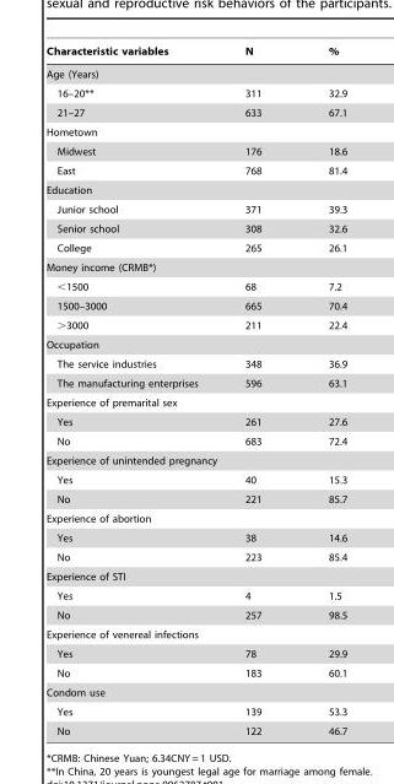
<table><thead><tr><td>Characteristic variables</td><td>N</td><td>%</td></tr></thead><tbody><tr><td colspan="3">Age (Years)</td></tr><tr><td>16–20**</td><td>311</td><td>32.9</td></tr><tr><td>21–27</td><td>633</td><td>67.1</td></tr><tr><td colspan="3">Hometown</td></tr><tr><td>Midwest</td><td>176</td><td>18.6</td></tr><tr><td>East</td><td>768</td><td>81.4</td></tr><tr><td colspan="3">Education</td></tr><tr><td>Junior school</td><td>371</td><td>39.3</td></tr><tr><td>Senior school</td><td>308</td><td>32.6</td></tr><tr><td>College</td><td>265</td><td>26.1</td></tr><tr><td colspan="3">Money income (CRMB*)</td></tr><tr><td>&lt;1500</td><td>68</td><td>7.2</td></tr><tr><td>1500–3000</td><td>665</td><td>70.4</td></tr><tr><td>&gt;3000</td><td>211</td><td>22.4</td></tr><tr><td colspan="3">Occupation</td></tr><tr><td>The service industries</td><td>348</td><td>36.9</td></tr><tr><td>The manufacturing enterprises</td><td>596</td><td>63.1</td></tr><tr><td colspan="3">Experience of premarital sex</td></tr><tr><td>Yes</td><td>261</td><td>27.6</td></tr><tr><td>No</td><td>683</td><td>72.4</td></tr><tr><td colspan="3">Experience of unintended pregnancy</td></tr><tr><td>Yes</td><td>40</td><td>15.3</td></tr><tr><td>No</td><td>221</td><td>85.7</td></tr><tr><td colspan="3">Experience of abortion</td></tr><tr><td>Yes</td><td>38</td><td>14.6</td></tr><tr><td>No</td><td>223</td><td>85.4</td></tr><tr><td colspan="3">Experience of STI</td></tr><tr><td>Yes</td><td>4</td><td>1.5</td></tr><tr><td>No</td><td>257</td><td>98.5</td></tr><tr><td colspan="3">Experience of venereal infections</td></tr><tr><td>Yes</td><td>78</td><td>29.9</td></tr><tr><td>No</td><td>183</td><td>60.1</td></tr><tr><td colspan="3">Condom use</td></tr><tr><td>Yes</td><td>139</td><td>53.3</td></tr><tr><td>No</td><td>122</td><td>46.7</td></tr></tbody></table>